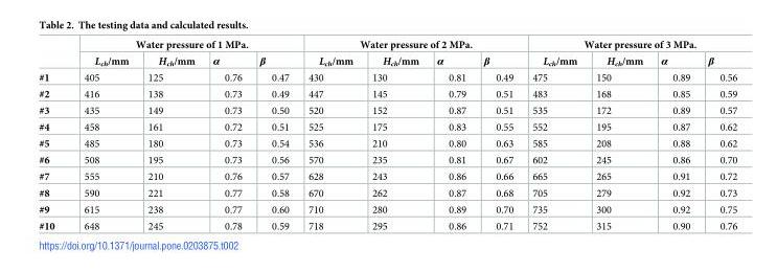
<table><thead><tr><td rowspan="2"></td><td colspan="4">Water pressure of 1 MPa.</td><td colspan="4">Water pressure of 2 MPa.</td><td colspan="4">Water pressure of 3 MPa.</td></tr><tr><td>L<sub>ch</sub>/mm</td><td>H<sub>ch</sub>/mm</td><td>α</td><td>β</td><td>L<sub>ch</sub>/mm</td><td>H<sub>ch</sub>/mm</td><td>α</td><td>β</td><td>L<sub>ch</sub>/mm</td><td>H<sub>ch</sub>/mm</td><td>α</td><td>β</td></tr></thead><tbody><tr><td>#1</td><td>405</td><td>125</td><td>0.76</td><td>0.47</td><td>430</td><td>130</td><td>0.81</td><td>0.49</td><td>475</td><td>150</td><td>0.89</td><td>0.56</td></tr><tr><td>#2</td><td>416</td><td>138</td><td>0.73</td><td>0.49</td><td>447</td><td>145</td><td>0.79</td><td>0.51</td><td>483</td><td>168</td><td>0.85</td><td>0.59</td></tr><tr><td>#3</td><td>435</td><td>149</td><td>0.73</td><td>0.50</td><td>520</td><td>152</td><td>0.87</td><td>0.51</td><td>535</td><td>172</td><td>0.89</td><td>0.57</td></tr><tr><td>#4</td><td>458</td><td>161</td><td>0.72</td><td>0.51</td><td>525</td><td>175</td><td>0.83</td><td>0.55</td><td>552</td><td>195</td><td>0.87</td><td>0.62</td></tr><tr><td>#5</td><td>485</td><td>180</td><td>0.73</td><td>0.54</td><td>536</td><td>210</td><td>0.80</td><td>0.63</td><td>585</td><td>208</td><td>0.88</td><td>0.62</td></tr><tr><td>#6</td><td>508</td><td>195</td><td>0.73</td><td>0.56</td><td>570</td><td>235</td><td>0.81</td><td>0.67</td><td>602</td><td>245</td><td>0.86</td><td>0.70</td></tr><tr><td>#7</td><td>555</td><td>210</td><td>0.76</td><td>0.57</td><td>628</td><td>243</td><td>0.86</td><td>0.66</td><td>665</td><td>265</td><td>0.91</td><td>0.72</td></tr><tr><td>#8</td><td>590</td><td>221</td><td>0.77</td><td>0.58</td><td>670</td><td>262</td><td>0.87</td><td>0.68</td><td>705</td><td>279</td><td>0.92</td><td>0.73</td></tr><tr><td>#9</td><td>615</td><td>238</td><td>0.77</td><td>0.60</td><td>710</td><td>280</td><td>0.89</td><td>0.70</td><td>735</td><td>300</td><td>0.92</td><td>0.75</td></tr><tr><td>#10</td><td>648</td><td>245</td><td>0.78</td><td>0.59</td><td>718</td><td>295</td><td>0.86</td><td>0.71</td><td>752</td><td>315</td><td>0.90</td><td>0.76</td></tr></tbody></table>